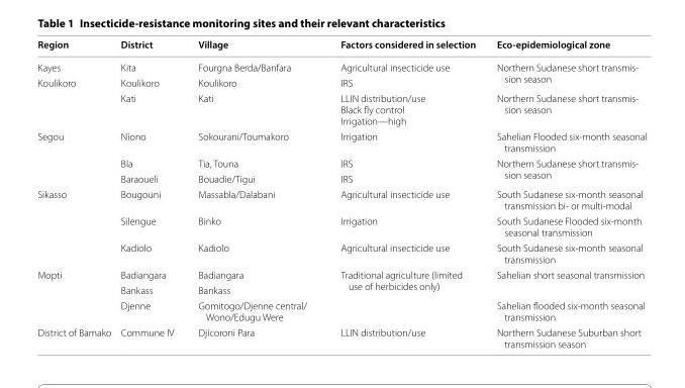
<table><thead><tr><td>Region</td><td>District</td><td>Village</td><td>Factors considered in selection</td><td>Eco-epidemiological zone</td></tr></thead><tbody><tr><td>Kayes</td><td>Kita</td><td>Fourgna Berda/Banfara</td><td>Agricultural insecticide use</td><td rowspan="2">Northern Sudanese short transmis- sion season</td></tr><tr><td rowspan="2">Koulikoro</td><td>Koulikoro</td><td>Koulikoro</td><td>IRS</td></tr><tr><td>Kati</td><td>Kati</td><td>LLIN distribution/use Black fly control Irrigation—high</td><td>Northern Sudanese short transmis- sion season</td></tr><tr><td rowspan="3">Segou</td><td>Niono</td><td>Sokourani/Toumakoro</td><td>Irrigation</td><td>Sahelian Flooded six-month seasonal transmission</td></tr><tr><td>Bla</td><td>Tia, Touna</td><td>IRS</td><td rowspan="2">Northern Sudanese short transmis- sion season</td></tr><tr><td>Baraoueli</td><td>Bouadie/Tigui</td><td>IRS</td></tr><tr><td rowspan="3">Sikasso</td><td>Bougouni</td><td>Massabla/Dalabani</td><td>Agricultural insecticide use</td><td>South Sudanese six-month seasonal transmission bi- or multi-modal</td></tr><tr><td>Silengue</td><td>Binko</td><td>Irrigation</td><td>South Sudanese Flooded six-month seasonal transmission</td></tr><tr><td>Kadiolo</td><td>Kadiolo</td><td>Agricultural insecticide use</td><td>South Sudanese six-month seasonal transmission</td></tr><tr><td rowspan="3">Mopti</td><td>Badiangara</td><td>Badiangara</td><td rowspan="3">Traditional agriculture (limited use of herbicides only)</td><td rowspan="2">Sahelian short seasonal transmission</td></tr><tr><td>Bankass</td><td>Bankass</td></tr><tr><td>Djenne</td><td>Gomitogo/Djenne central/ Wono/Edugu Were</td><td>Sahelian flooded six-month seasonal transmission</td></tr><tr><td>District of Bamako</td><td>Commune IV</td><td>Djicoroni Para</td><td>LLIN distribution/use</td><td>Northern Sudanese Suburban short transmission season</td></tr></tbody></table>